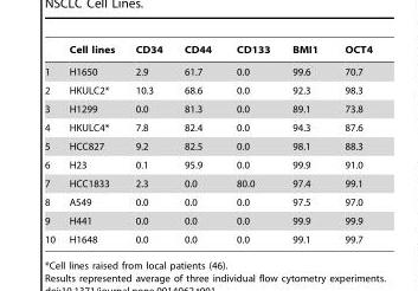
<table><thead><tr><td></td><td>Cell lines</td><td>CD34</td><td>CD44</td><td>CD133</td><td>BMI1</td><td>OCT4</td></tr></thead><tbody><tr><td>1</td><td>H1650</td><td>2.9</td><td>61.7</td><td>0.0</td><td>99.6</td><td>70.7</td></tr><tr><td>2</td><td>HKULC2*</td><td>10.3</td><td>68.6</td><td>0.0</td><td>92.3</td><td>98.3</td></tr><tr><td>3</td><td>H1299</td><td>0.0</td><td>81.3</td><td>0.0</td><td>89.1</td><td>73.8</td></tr><tr><td>4</td><td>HKULC4*</td><td>7.8</td><td>82.4</td><td>0.0</td><td>94.3</td><td>87.6</td></tr><tr><td>5</td><td>HCC827</td><td>9.2</td><td>82.5</td><td>0.0</td><td>98.1</td><td>88.3</td></tr><tr><td>6</td><td>H23</td><td>0.1</td><td>95.9</td><td>0.0</td><td>99.9</td><td>91.0</td></tr><tr><td>7</td><td>HCC1833</td><td>2.3</td><td>0.0</td><td>80.0</td><td>97.4</td><td>99.1</td></tr><tr><td>8</td><td>A549</td><td>0.0</td><td>0.0</td><td>0.0</td><td>97.5</td><td>97.0</td></tr><tr><td>9</td><td>H441</td><td>0.0</td><td>0.0</td><td>0.0</td><td>99.9</td><td>99.9</td></tr><tr><td>10</td><td>H1648</td><td>0.0</td><td>0.0</td><td>0.0</td><td>99.1</td><td>99.7</td></tr></tbody></table>